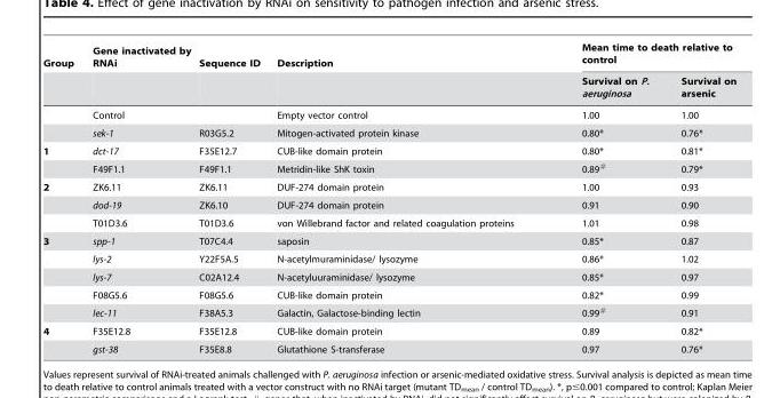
<table><thead><tr><td rowspan="2">Group</td><td rowspan="2">Gene inactivated by RNAi</td><td rowspan="2">Sequence ID</td><td rowspan="2">Description</td><td colspan="2">Mean time to death relative to control</td></tr><tr><td>Survival on P. aeruginosa</td><td>Survival on arsenic</td></tr></thead><tbody><tr><td></td><td>Control</td><td></td><td>Empty vector control</td><td>1.00</td><td>1.00</td></tr><tr><td></td><td>sek-1</td><td>R03G5.2</td><td>Mitogen-activated protein kinase</td><td>0.80*</td><td>0.76*</td></tr><tr><td rowspan="2">1</td><td>dct-17</td><td>F35E12.7</td><td>CUB-like domain protein</td><td>0.80*</td><td>0.81*</td></tr><tr><td>F49F1.1</td><td>F49F1.1</td><td>Metridin-like ShK toxin</td><td>0.89<sup>#</sup></td><td>0.79*</td></tr><tr><td rowspan="3">2</td><td>ZK6.11</td><td>ZK6.11</td><td>DUF-274 domain protein</td><td>1.00</td><td>0.93</td></tr><tr><td>dod-19</td><td>ZK6.10</td><td>DUF-274 domain protein</td><td>0.91</td><td>0.90</td></tr><tr><td>T01D3.6</td><td>T01D3.6</td><td>von Willebrand factor and related coagulation proteins</td><td>1.01</td><td>0.98</td></tr><tr><td rowspan="5">3</td><td>spp-1</td><td>T07C4.4</td><td>saposin</td><td>0.85*</td><td>0.87</td></tr><tr><td>lys-2</td><td>Y22F5A.5</td><td>N-acetylmuraminidase/ lysozyme</td><td>0.86*</td><td>1.02</td></tr><tr><td>lys-7</td><td>C02A12.4</td><td>N-acetyluuraminidase/ lysozyme</td><td>0.85*</td><td>0.97</td></tr><tr><td>F08G5.6</td><td>F08G5.6</td><td>CUB-like domain protein</td><td>0.82*</td><td>0.99</td></tr><tr><td>lec-11</td><td>F38A5.3</td><td>Galactin, Galactose-binding lectin</td><td>0.99<sup>#</sup></td><td>0.91</td></tr><tr><td rowspan="2">4</td><td>F35E12.8</td><td>F35E12.8</td><td>CUB-like domain protein</td><td>0.89</td><td>0.82*</td></tr><tr><td>gst-38</td><td>F35E8.8</td><td>Glutathione S-transferase</td><td>0.97</td><td>0.76*</td></tr></tbody></table>